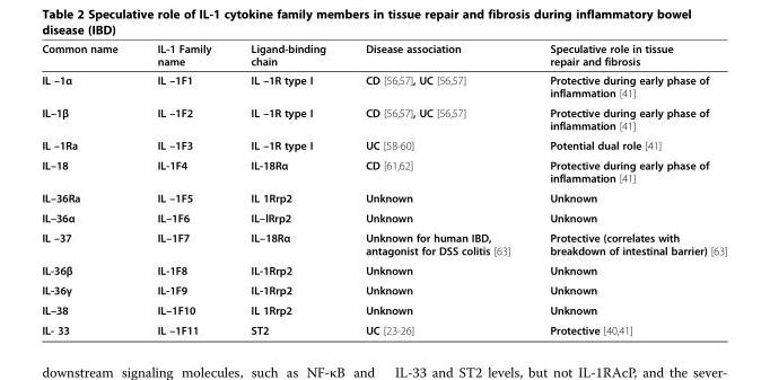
<table><thead><tr><td>Common name</td><td>IL-1 Family name</td><td>Ligand-binding chain</td><td>Disease association</td><td>Speculative role in tissue repair and fibrosis</td></tr></thead><tbody><tr><td>IL –1α</td><td>IL –1F1</td><td>IL –1R type I</td><td>CD [56,57], UC [56,57]</td><td>Protective during early phase of inflammation [41]</td></tr><tr><td>IL–1β</td><td>IL –1F2</td><td>IL –1R type I</td><td>CD [56,57], UC [56,57]</td><td>Protective during early phase of inflammation [41]</td></tr><tr><td>IL –1Ra</td><td>IL –1F3</td><td>IL –1R type I</td><td>UC [58-60]</td><td>Potential dual role [41]</td></tr><tr><td>IL–18</td><td>IL-1F4</td><td>IL-18Rα</td><td>CD [61,62]</td><td>Protective during early phase of inflammation [41]</td></tr><tr><td>IL–36Ra</td><td>IL –1F5</td><td>IL 1Rrp2</td><td>Unknown</td><td>Unknown</td></tr><tr><td>IL–36α</td><td>IL–1F6</td><td>IL–lRrp2</td><td>Unknown</td><td>Unknown</td></tr><tr><td>IL –37</td><td>IL–1F7</td><td>IL–18Rα</td><td>Unknown for human IBD, antagonist for DSS colitis [63]</td><td>Protective (correlates with breakdown of intestinal barrier) [63]</td></tr><tr><td>IL-36β</td><td>IL-1F8</td><td>IL-1Rrp2</td><td>Unknown</td><td>Unknown</td></tr><tr><td>IL-36γ</td><td>IL-1F9</td><td>IL-1Rrp2</td><td>Unknown</td><td>Unknown</td></tr><tr><td>IL–38</td><td>IL–1F10</td><td>IL 1Rrp2</td><td>Unknown</td><td>Unknown</td></tr><tr><td>IL- 33</td><td>IL –1F11</td><td>ST2</td><td>UC [23-26]</td><td>Protective [40,41]</td></tr></tbody></table>